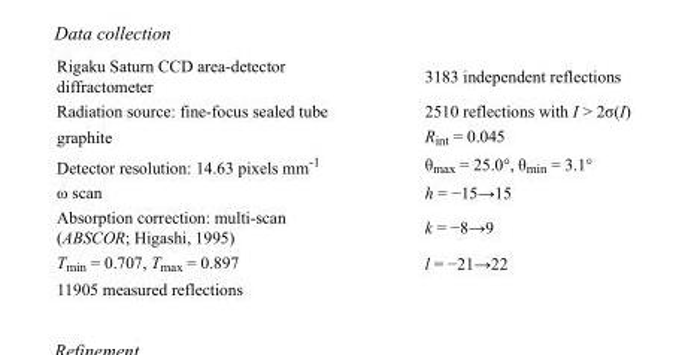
<table><tbody><tr><td>Rigaku Saturn CCD area-detector diffractometer</td><td>3183 independent reflections</td></tr><tr><td>Radiation source: fine-focus sealed tube</td><td>2510 reflections with I &gt; 2σ(I)</td></tr><tr><td>graphite</td><td>R<sub>int</sub> = 0.045</td></tr><tr><td>Detector resolution: 14.63 pixels mm<sup>-1</sup></td><td>θ<sub>max</sub> = 25.0°, θ<sub>min</sub> = 3.1°</td></tr><tr><td>ω scan</td><td>h = −15→15</td></tr><tr><td>Absorption correction: multi-scan (ABSCOR; Higashi, 1995)</td><td>k = −8→9</td></tr><tr><td>T<sub>min</sub> = 0.707, T<sub>max</sub> = 0.897</td><td>l = −21→22</td></tr><tr><td>11905 measured reflections</td><td></td></tr></tbody></table>